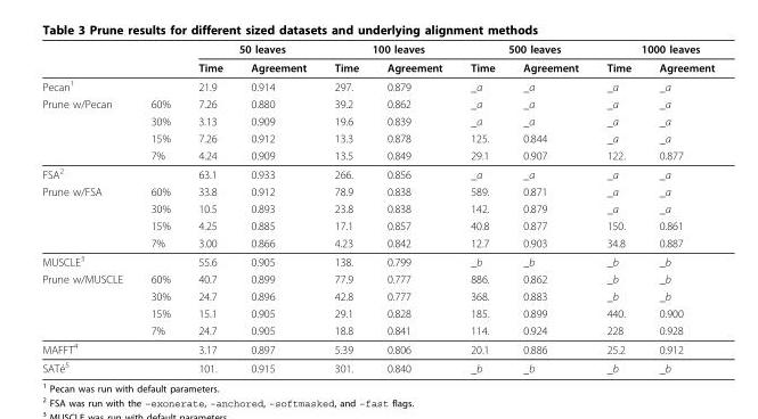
<table><thead><tr><td rowspan="2"></td><td rowspan="2"></td><td colspan="2">50 leaves</td><td colspan="2">100 leaves</td><td colspan="2">500 leaves</td><td colspan="2">1000 leaves</td></tr><tr><td>Time</td><td>Agreement</td><td>Time</td><td>Agreement</td><td>Time</td><td>Agreement</td><td>Time</td><td>Agreement</td></tr></thead><tbody><tr><td>Pecan<sup>1</sup></td><td></td><td>21.9</td><td>0.914</td><td>297.</td><td>0.879</td><td>_a</td><td>_a</td><td>_a</td><td>_a</td></tr><tr><td rowspan="4">Prune w/Pecan</td><td>60%</td><td>7.26</td><td>0.880</td><td>39.2</td><td>0.862</td><td>_a</td><td>_a</td><td>_a</td><td>_a</td></tr><tr><td>30%</td><td>3.13</td><td>0.909</td><td>19.6</td><td>0.839</td><td>_a</td><td>_a</td><td>_a</td><td>_a</td></tr><tr><td>15%</td><td>7.26</td><td>0.912</td><td>13.3</td><td>0.878</td><td>125.</td><td>0.844</td><td>_a</td><td>_a</td></tr><tr><td>7%</td><td>4.24</td><td>0.909</td><td>13.5</td><td>0.849</td><td>29.1</td><td>0.907</td><td>122.</td><td>0.877</td></tr><tr><td>FSA<sup>2</sup></td><td></td><td>63.1</td><td>0.933</td><td>266.</td><td>0.856</td><td>_a</td><td>_a</td><td>_a</td><td>_a</td></tr><tr><td rowspan="4">Prune w/FSA</td><td>60%</td><td>33.8</td><td>0.912</td><td>78.9</td><td>0.838</td><td>589.</td><td>0.871</td><td>_a</td><td>_a</td></tr><tr><td>30%</td><td>10.5</td><td>0.893</td><td>23.8</td><td>0.838</td><td>142.</td><td>0.879</td><td>_a</td><td>_a</td></tr><tr><td>15%</td><td>4.25</td><td>0.885</td><td>17.1</td><td>0.857</td><td>40.8</td><td>0.877</td><td>150.</td><td>0.861</td></tr><tr><td>7%</td><td>3.00</td><td>0.866</td><td>4.23</td><td>0.842</td><td>12.7</td><td>0.903</td><td>34.8</td><td>0.887</td></tr><tr><td>MUSCLE<sup>3</sup></td><td></td><td>55.6</td><td>0.905</td><td>138.</td><td>0.799</td><td>_b</td><td>_b</td><td>_b</td><td>_b</td></tr><tr><td rowspan="4">Prune w/MUSCLE</td><td>60%</td><td>40.7</td><td>0.899</td><td>77.9</td><td>0.777</td><td>886.</td><td>0.862</td><td>_b</td><td>_b</td></tr><tr><td>30%</td><td>24.7</td><td>0.896</td><td>42.8</td><td>0.777</td><td>368.</td><td>0.883</td><td>_b</td><td>_b</td></tr><tr><td>15%</td><td>15.1</td><td>0.905</td><td>29.1</td><td>0.828</td><td>185.</td><td>0.899</td><td>440.</td><td>0.900</td></tr><tr><td>7%</td><td>24.7</td><td>0.905</td><td>18.8</td><td>0.841</td><td>114.</td><td>0.924</td><td>228</td><td>0.928</td></tr><tr><td>MAFFT<sup>4</sup></td><td></td><td>3.17</td><td>0.897</td><td>5.39</td><td>0.806</td><td>20.1</td><td>0.886</td><td>25.2</td><td>0.912</td></tr><tr><td>SATé<sup>5</sup></td><td></td><td>101.</td><td>0.915</td><td>301.</td><td>0.840</td><td>_b</td><td>_b</td><td>_b</td><td>_b</td></tr></tbody></table>